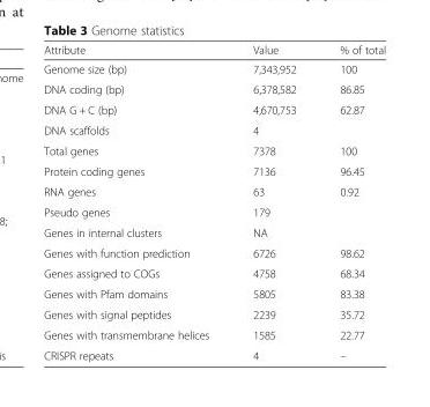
<table><thead><tr><td>Attribute</td><td>Value</td><td>% of total</td></tr></thead><tbody><tr><td>Genome size (bp)</td><td>7,343,952</td><td>100</td></tr><tr><td>DNA coding (bp)</td><td>6,378,582</td><td>86.85</td></tr><tr><td>DNA G + C (bp)</td><td>4,670,753</td><td>62.87</td></tr><tr><td>DNA scaffolds</td><td>4</td><td></td></tr><tr><td>Total genes</td><td>7378</td><td>100</td></tr><tr><td>Protein coding genes</td><td>7136</td><td>96.45</td></tr><tr><td>RNA genes</td><td>63</td><td>0.92</td></tr><tr><td>Pseudo genes</td><td>179</td><td></td></tr><tr><td>Genes in internal clusters</td><td>NA</td><td></td></tr><tr><td>Genes with function prediction</td><td>6726</td><td>98.62</td></tr><tr><td>Genes assigned to COGs</td><td>4758</td><td>68.34</td></tr><tr><td>Genes with Pfam domains</td><td>5805</td><td>83.38</td></tr><tr><td>Genes with signal peptides</td><td>2239</td><td>35.72</td></tr><tr><td>Genes with transmembrane helices</td><td>1585</td><td>22.77</td></tr><tr><td>CRISPR repeats</td><td>4</td><td>–</td></tr></tbody></table>